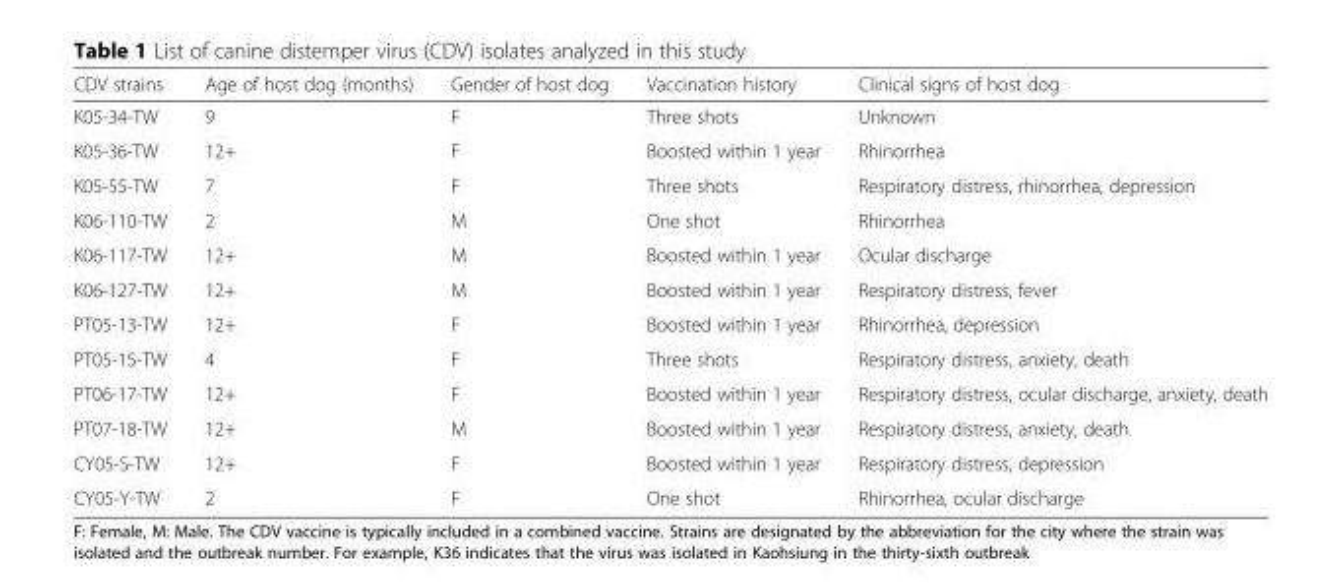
<table><thead><tr><td>CDV strains</td><td>Age of host dog (months)</td><td>Gender of host dog</td><td>Vaccination history</td><td>Clinical signs of host dog</td></tr></thead><tbody><tr><td>K05-34-TW</td><td>9</td><td>F</td><td>Three shots</td><td>Unknown</td></tr><tr><td>K05-36-TW</td><td>12+</td><td>F</td><td>Boosted within 1 year</td><td>Rhinorrhea</td></tr><tr><td>K05-55-TW</td><td>7</td><td>F</td><td>Three shots</td><td>Respiratory distress, rhinorrhea, depression</td></tr><tr><td>K06-110-TW</td><td>2</td><td>M</td><td>One shot</td><td>Rhinorrhea</td></tr><tr><td>K06-117-TW</td><td>12+</td><td>M</td><td>Boosted within 1 year</td><td>Ocular discharge</td></tr><tr><td>K06-127-TW</td><td>12+</td><td>M</td><td>Boosted within 1 year</td><td>Respiratory distress, fever</td></tr><tr><td>PT05-13-TW</td><td>12+</td><td>F</td><td>Boosted within 1 year</td><td>Rhinorrhea, depression</td></tr><tr><td>PT05-15-TW</td><td>4</td><td>F</td><td>Three shots</td><td>Respiratory distress, anxiety, death</td></tr><tr><td>PT06-17-TW</td><td>12+</td><td>F</td><td>Boosted within 1 year</td><td>Respiratory distress, ocular discharge, anxiety, death</td></tr><tr><td>PT07-18-TW</td><td>12+</td><td>M</td><td>Boosted within 1 year</td><td>Respiratory distress, anxiety, death</td></tr><tr><td>CY05-S-TW</td><td>12+</td><td>F</td><td>Boosted within 1 year</td><td>Respiratory distress, depression</td></tr><tr><td>CY05-Y-TW</td><td>2</td><td>F</td><td>One shot</td><td>Rhinorrhea, ocular discharge</td></tr></tbody></table>